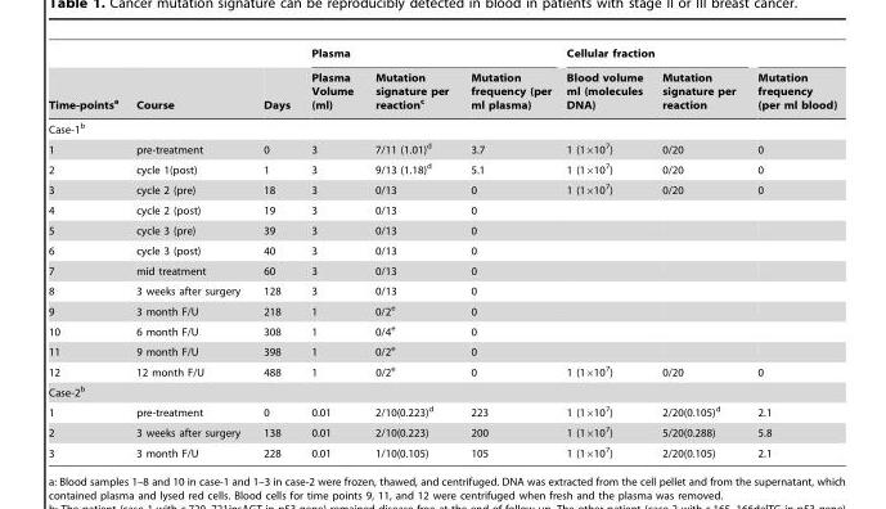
<table><thead><tr><td rowspan="2">Time-points<sup>a</sup></td><td rowspan="2">Course</td><td rowspan="2">Days</td><td colspan="3">Plasma</td><td colspan="2">Cellular fraction</td><td rowspan="2">Mutation frequency (per ml blood)</td></tr><tr><td>Plasma Volume (ml)</td><td>Mutation signature per reaction<sup>c</sup></td><td>Mutation frequency (per ml plasma)</td><td>Blood volume ml (molecules DNA)</td><td>Mutation signature per reaction</td></tr></thead><tbody><tr><td colspan="9">Case-1<sup>b</sup></td></tr><tr><td>1</td><td>pre-treatment</td><td>0</td><td>3</td><td>7/11 (1.01)<sup>d</sup></td><td>3.7</td><td>1 (1×10<sup>7</sup>)</td><td>0/20</td><td>0</td></tr><tr><td>2</td><td>cycle 1(post)</td><td>1</td><td>3</td><td>9/13 (1.18)<sup>d</sup></td><td>5.1</td><td>1 (1×10<sup>7</sup>)</td><td>0/20</td><td>0</td></tr><tr><td>3</td><td>cycle 2 (pre)</td><td>18</td><td>3</td><td>0/13</td><td>0</td><td>1 (1×10<sup>7</sup>)</td><td>0/20</td><td>0</td></tr><tr><td>4</td><td>cycle 2 (post)</td><td>19</td><td>3</td><td>0/13</td><td>0</td><td></td><td></td><td></td></tr><tr><td>5</td><td>cycle 3 (pre)</td><td>39</td><td>3</td><td>0/13</td><td>0</td><td></td><td></td><td></td></tr><tr><td>6</td><td>cycle 3 (post)</td><td>40</td><td>3</td><td>0/13</td><td>0</td><td></td><td></td><td></td></tr><tr><td>7</td><td>mid treatment</td><td>60</td><td>3</td><td>0/13</td><td>0</td><td></td><td></td><td></td></tr><tr><td>8</td><td>3 weeks after surgery</td><td>128</td><td>3</td><td>0/13</td><td>0</td><td></td><td></td><td></td></tr><tr><td>9</td><td>3 month F/U</td><td>218</td><td>1</td><td>0/2<sup>e</sup></td><td>0</td><td></td><td></td><td></td></tr><tr><td>10</td><td>6 month F/U</td><td>308</td><td>1</td><td>0/4<sup>e</sup></td><td>0</td><td></td><td></td><td></td></tr><tr><td>11</td><td>9 month F/U</td><td>398</td><td>1</td><td>0/2<sup>e</sup></td><td>0</td><td></td><td></td><td></td></tr><tr><td>12</td><td>12 month F/U</td><td>488</td><td>1</td><td>0/2<sup>e</sup></td><td>0</td><td>1 (1×10<sup>7</sup>)</td><td>0/20</td><td>0</td></tr><tr><td colspan="9">Case-2<sup>b</sup></td></tr><tr><td>1</td><td>pre-treatment</td><td>0</td><td>0.01</td><td>2/10(0.223)<sup>d</sup></td><td>223</td><td>1 (1×10<sup>7</sup>)</td><td>2/20(0.105)<sup>d</sup></td><td>2.1</td></tr><tr><td>2</td><td>3 weeks after surgery</td><td>138</td><td>0.01</td><td>2/10(0.223)</td><td>200</td><td>1 (1×10<sup>7</sup>)</td><td>5/20(0.288)</td><td>5.8</td></tr><tr><td>3</td><td>3 month F/U</td><td>228</td><td>0.01</td><td>1/10(0.105)</td><td>105</td><td>1 (1×10<sup>7</sup>)</td><td>2/20(0.105)</td><td>2.1</td></tr></tbody></table>